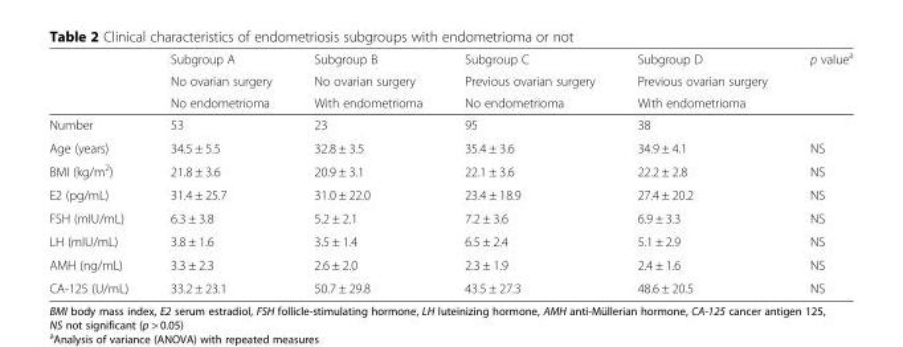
<table><thead><tr><td rowspan="3"></td><td rowspan="3">Subgroup A No ovarian surgery No endometrioma</td><td rowspan="3">Subgroup B No ovarian surgery With endometrioma</td><td rowspan="3">Subgroup C Previous ovarian surgery No endometrioma</td><td rowspan="3">Subgroup D Previous ovarian surgery With endometrioma</td><td rowspan="3">p value<sup>a</sup></td></tr><tr></tr><tr></tr></thead><tbody><tr><td>Number</td><td>53</td><td>23</td><td>95</td><td>38</td><td></td></tr><tr><td>Age (years)</td><td>34.5 ± 5.5</td><td>32.8 ± 3.5</td><td>35.4 ± 3.6</td><td>34.9 ± 4.1</td><td>NS</td></tr><tr><td>BMI (kg/m<sup>2</sup>)</td><td>21.8 ± 3.6</td><td>20.9 ± 3.1</td><td>22.1 ± 3.6</td><td>22.2 ± 2.8</td><td>NS</td></tr><tr><td>E2 (pg/mL)</td><td>31.4 ± 25.7</td><td>31.0 ± 22.0</td><td>23.4 ± 18.9</td><td>27.4 ± 20.2</td><td>NS</td></tr><tr><td>FSH (mIU/mL)</td><td>6.3 ± 3.8</td><td>5.2 ± 2.1</td><td>7.2 ± 3.6</td><td>6.9 ± 3.3</td><td>NS</td></tr><tr><td>LH (mIU/mL)</td><td>3.8 ± 1.6</td><td>3.5 ± 1.4</td><td>6.5 ± 2.4</td><td>5.1 ± 2.9</td><td>NS</td></tr><tr><td>AMH (ng/mL)</td><td>3.3 ± 2.3</td><td>2.6 ± 2.0</td><td>2.3 ± 1.9</td><td>2.4 ± 1.6</td><td>NS</td></tr><tr><td>CA-125 (U/mL)</td><td>33.2 ± 23.1</td><td>50.7 ± 29.8</td><td>43.5 ± 27.3</td><td>48.6 ± 20.5</td><td>NS</td></tr></tbody></table>